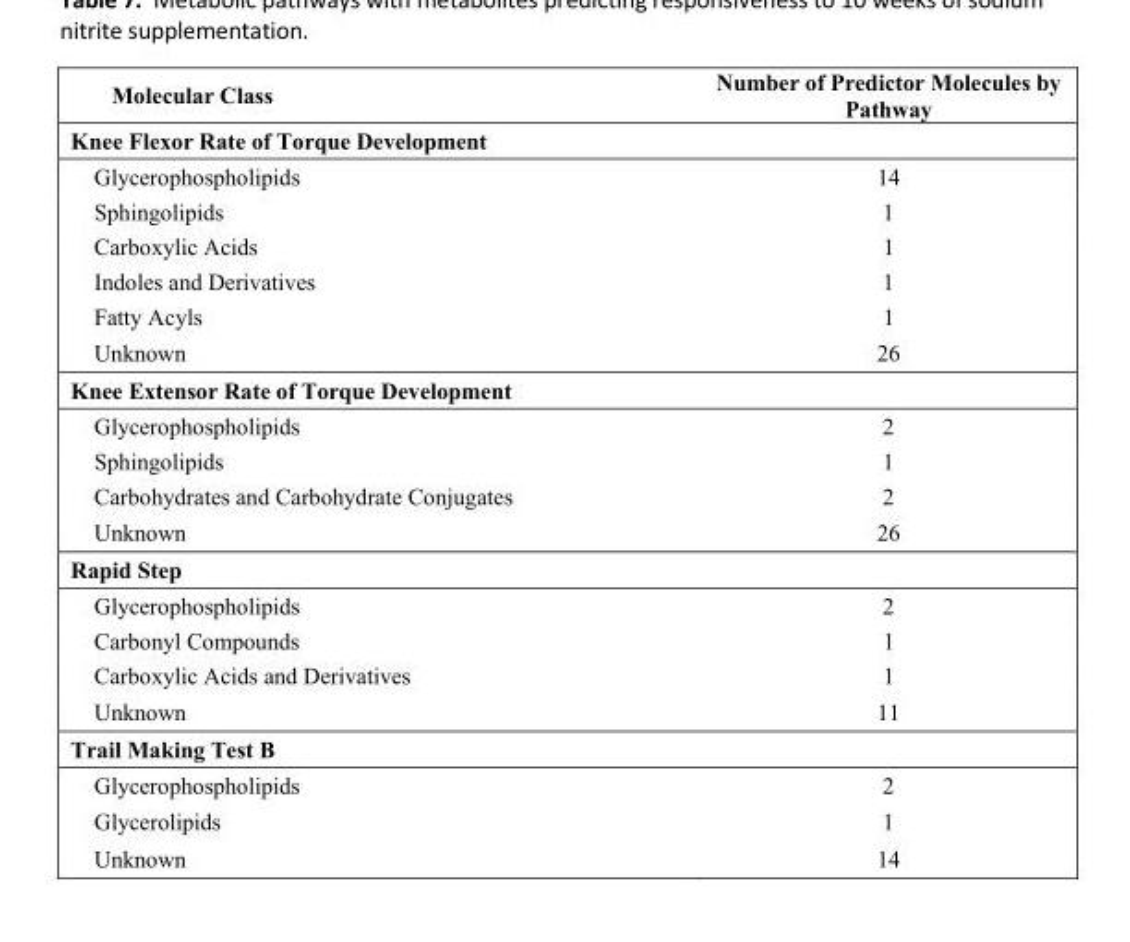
<table><thead><tr><td>Molecular Class</td><td>Number of Predictor Molecules by Pathway</td></tr></thead><tbody><tr><td colspan="2">Knee Flexor Rate of Torque Development</td></tr><tr><td>Glycerophospholipids</td><td>14</td></tr><tr><td>Sphingolipids</td><td>1</td></tr><tr><td>Carboxylic Acids</td><td>1</td></tr><tr><td>Indoles and Derivatives</td><td>1</td></tr><tr><td>Fatty Acyls</td><td>1</td></tr><tr><td>Unknown</td><td>26</td></tr><tr><td colspan="2">Knee Extensor Rate of Torque Development</td></tr><tr><td>Glycerophospholipids</td><td>2</td></tr><tr><td>Sphingolipids</td><td>1</td></tr><tr><td>Carbohydrates and Carbohydrate Conjugates</td><td>2</td></tr><tr><td>Unknown</td><td>26</td></tr><tr><td colspan="2">Rapid Step</td></tr><tr><td>Glycerophospholipids</td><td>2</td></tr><tr><td>Carbonyl Compounds</td><td>1</td></tr><tr><td>Carboxylic Acids and Derivatives</td><td>1</td></tr><tr><td>Unknown</td><td>11</td></tr><tr><td colspan="2">Trail Making Test B</td></tr><tr><td>Glycerophospholipids</td><td>2</td></tr><tr><td>Glycerolipids</td><td>1</td></tr><tr><td>Unknown</td><td>14</td></tr></tbody></table>